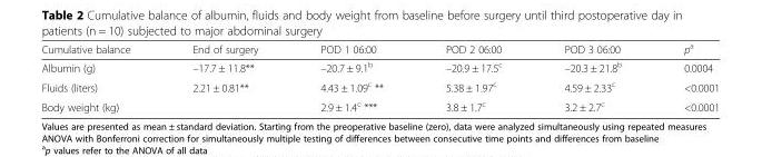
<table><thead><tr><td>Cumulative balance</td><td>End of surgery</td><td>POD 1 06:00</td><td>POD 2 06:00</td><td>POD 3 06:00</td><td>p<sup>a</sup></td></tr></thead><tbody><tr><td>Albumin (g)</td><td>–17.7 ± 11.8**</td><td>–20.7 ± 9.1<sup>b</sup></td><td>–20.9 ± 17.5<sup>c</sup></td><td>–20.3 ± 21.8<sup>b</sup></td><td>0.0004</td></tr><tr><td>Fluids (liters)</td><td>2.21 ± 0.81**</td><td>4.43 ± 1.09<sup>c</sup> **</td><td>5.38 ± 1.97<sup>c</sup></td><td>4.59 ± 2.33<sup>c</sup></td><td>&lt;0.0001</td></tr><tr><td>Body weight (kg)</td><td></td><td>2.9 ± 1.4<sup>c</sup> ***</td><td>3.8 ± 1.7<sup>c</sup></td><td>3.2 ± 2.7<sup>c</sup></td><td>&lt;0.0001</td></tr></tbody></table>